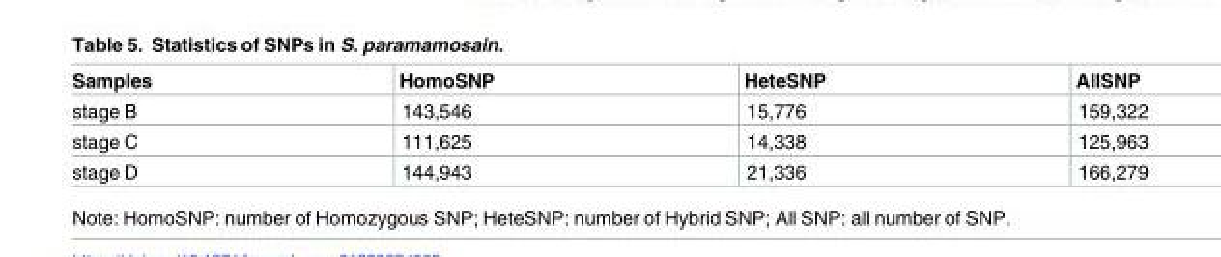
<table><thead><tr><td>Samples</td><td>HomoSNP</td><td>HeteSNP</td><td>AllSNP</td></tr></thead><tbody><tr><td>stage B</td><td>143,546</td><td>15,776</td><td>159,322</td></tr><tr><td>stage C</td><td>111,625</td><td>14,338</td><td>125,963</td></tr><tr><td>stage D</td><td>144,943</td><td>21,336</td><td>166,279</td></tr></tbody></table>